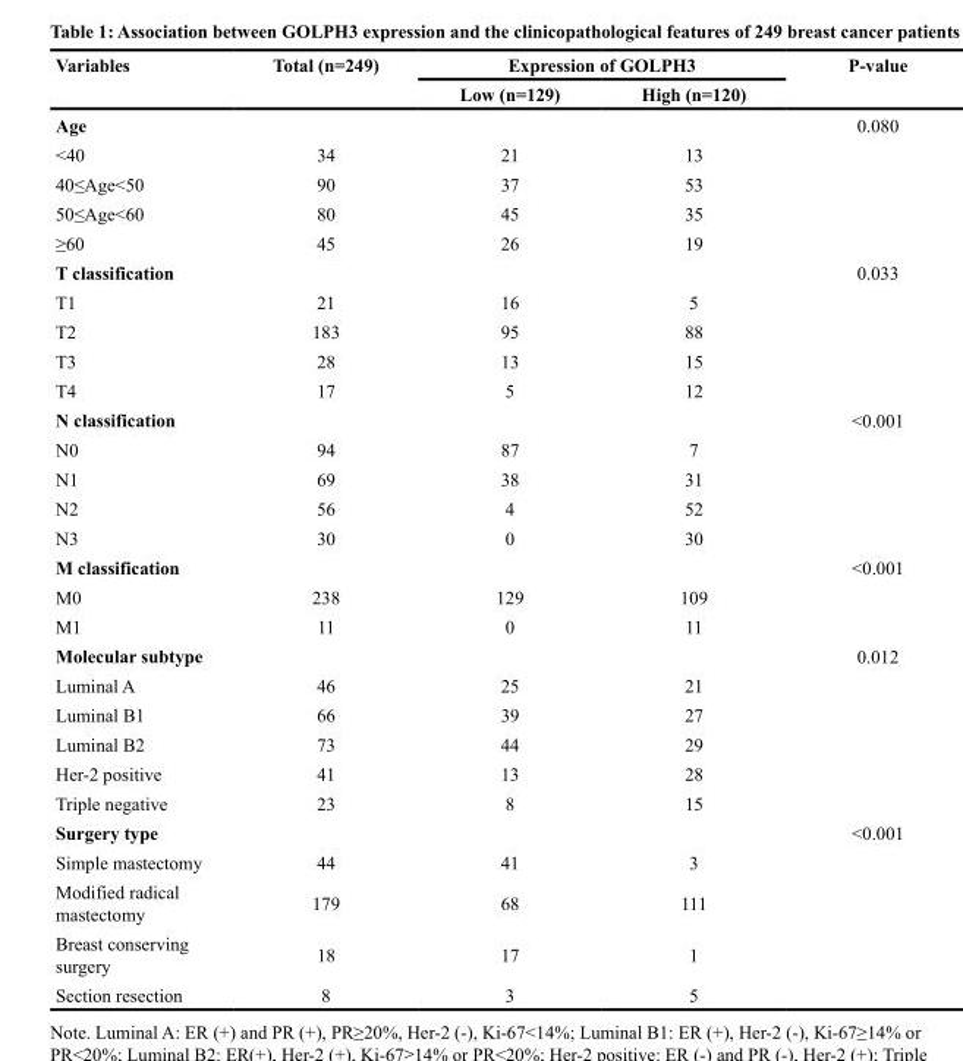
<table><thead><tr><td rowspan="2">Variables</td><td rowspan="2">Total (n=249)</td><td colspan="2">Expression of GOLPH3</td><td rowspan="2">P-value</td></tr><tr><td>Low (n=129)</td><td>High (n=120)</td></tr></thead><tbody><tr><td>Age</td><td></td><td></td><td></td><td>0.080</td></tr><tr><td>&lt;40</td><td>34</td><td>21</td><td>13</td><td></td></tr><tr><td>40≤Age&lt;50</td><td>90</td><td>37</td><td>53</td><td></td></tr><tr><td>50≤Age&lt;60</td><td>80</td><td>45</td><td>35</td><td></td></tr><tr><td>≥60</td><td>45</td><td>26</td><td>19</td><td></td></tr><tr><td>T classification</td><td></td><td></td><td></td><td>0.033</td></tr><tr><td>T1</td><td>21</td><td>16</td><td>5</td><td></td></tr><tr><td>T2</td><td>183</td><td>95</td><td>88</td><td></td></tr><tr><td>T3</td><td>28</td><td>13</td><td>15</td><td></td></tr><tr><td>T4</td><td>17</td><td>5</td><td>12</td><td></td></tr><tr><td>N classification</td><td></td><td></td><td></td><td>&lt;0.001</td></tr><tr><td>N0</td><td>94</td><td>87</td><td>7</td><td></td></tr><tr><td>N1</td><td>69</td><td>38</td><td>31</td><td></td></tr><tr><td>N2</td><td>56</td><td>4</td><td>52</td><td></td></tr><tr><td>N3</td><td>30</td><td>0</td><td>30</td><td></td></tr><tr><td>M classification</td><td></td><td></td><td></td><td>&lt;0.001</td></tr><tr><td>M0</td><td>238</td><td>129</td><td>109</td><td></td></tr><tr><td>M1</td><td>11</td><td>0</td><td>11</td><td></td></tr><tr><td>Molecular subtype</td><td></td><td></td><td></td><td>0.012</td></tr><tr><td>Luminal A</td><td>46</td><td>25</td><td>21</td><td></td></tr><tr><td>Luminal B1</td><td>66</td><td>39</td><td>27</td><td></td></tr><tr><td>Luminal B2</td><td>73</td><td>44</td><td>29</td><td></td></tr><tr><td>Her-2 positive</td><td>41</td><td>13</td><td>28</td><td></td></tr><tr><td>Triple negative</td><td>23</td><td>8</td><td>15</td><td></td></tr><tr><td>Surgery type</td><td></td><td></td><td></td><td>&lt;0.001</td></tr><tr><td>Simple mastectomy</td><td>44</td><td>41</td><td>3</td><td></td></tr><tr><td>Modified radical mastectomy</td><td>179</td><td>68</td><td>111</td><td></td></tr><tr><td>Breast conserving surgery</td><td>18</td><td>17</td><td>1</td><td></td></tr><tr><td>Section resection</td><td>8</td><td>3</td><td>5</td><td></td></tr></tbody></table>